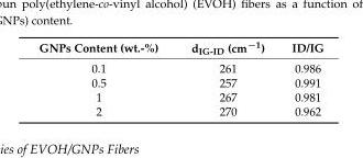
<table><thead><tr><td>GNPs Content (wt.-%)</td><td>d<sub>IG-ID</sub> (cm<sup>−1</sup>)</td><td>ID/IG</td></tr></thead><tbody><tr><td>0.1</td><td>261</td><td>0.986</td></tr><tr><td>0.5</td><td>257</td><td>0.991</td></tr><tr><td>1</td><td>267</td><td>0.981</td></tr><tr><td>2</td><td>270</td><td>0.962</td></tr></tbody></table>